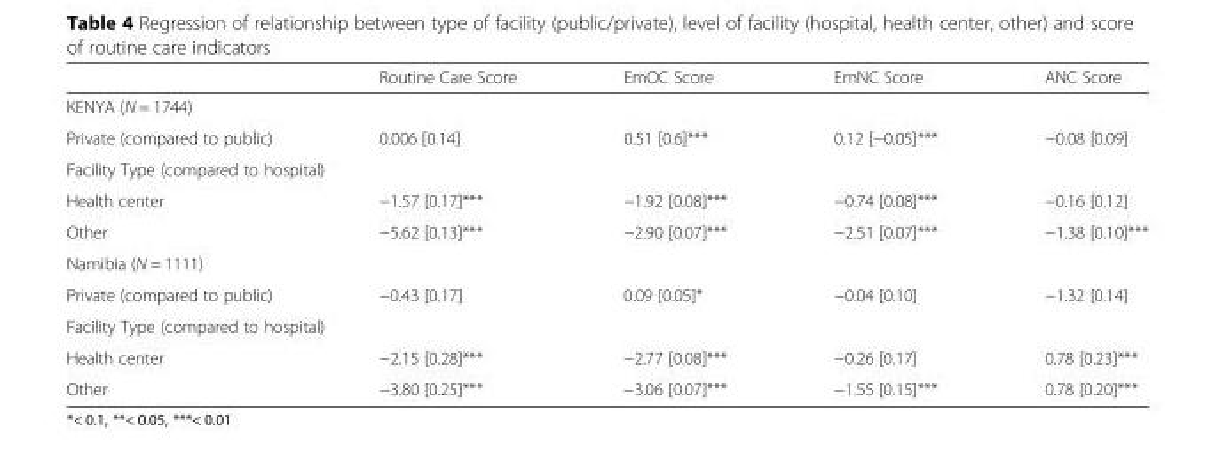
<table><thead><tr><td></td><td>Routine Care Score</td><td>EmOC Score</td><td>EmNC Score</td><td>ANC Score</td></tr></thead><tbody><tr><td colspan="5">KENYA (N = 1744)</td></tr><tr><td>Private (compared to public)</td><td>0.006 [0.14]</td><td>0.51 [0.6]***</td><td>0.12 [−0.05]***</td><td>−0.08 [0.09]</td></tr><tr><td colspan="5">Facility Type (compared to hospital)</td></tr><tr><td>Health center</td><td>−1.57 [0.17]***</td><td>−1.92 [0.08]***</td><td>−0.74 [0.08]***</td><td>−0.16 [0.12]</td></tr><tr><td>Other</td><td>−5.62 [0.13]***</td><td>−2.90 [0.07]***</td><td>−2.51 [0.07]***</td><td>−1.38 [0.10]***</td></tr><tr><td colspan="5">Namibia (N = 1111)</td></tr><tr><td>Private (compared to public)</td><td>−0.43 [0.17]</td><td>0.09 [0.05]*</td><td>−0.04 [0.10]</td><td>−1.32 [0.14]</td></tr><tr><td colspan="5">Facility Type (compared to hospital)</td></tr><tr><td>Health center</td><td>−2.15 [0.28]***</td><td>−2.77 [0.08]***</td><td>−0.26 [0.17]</td><td>0.78 [0.23]***</td></tr><tr><td>Other</td><td>−3.80 [0.25]***</td><td>−3.06 [0.07]***</td><td>−1.55 [0.15]***</td><td>0.78 [0.20]***</td></tr></tbody></table>